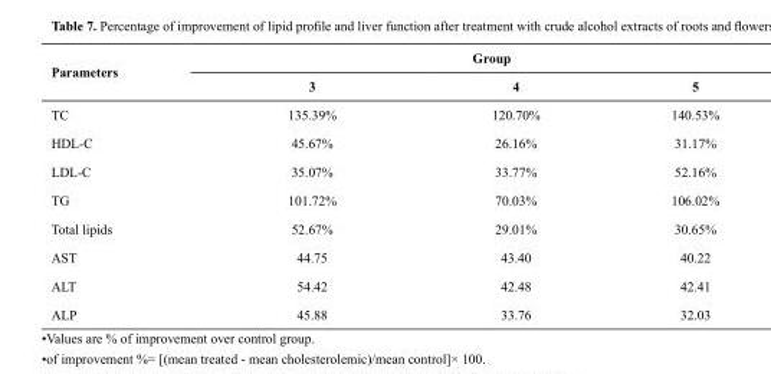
<table><thead><tr><td rowspan="2">Parameters</td><td colspan="3">Group</td></tr><tr><td>3</td><td>4</td><td>5</td></tr></thead><tbody><tr><td>TC</td><td>135.39%</td><td>120.70%</td><td>140.53%</td></tr><tr><td>HDL-C</td><td>45.67%</td><td>26.16%</td><td>31.17%</td></tr><tr><td>LDL-C</td><td>35.07%</td><td>33.77%</td><td>52.16%</td></tr><tr><td>TG</td><td>101.72%</td><td>70.03%</td><td>106.02%</td></tr><tr><td>Total lipids</td><td>52.67%</td><td>29.01%</td><td>30.65%</td></tr><tr><td>AST</td><td>44.75</td><td>43.40</td><td>40.22</td></tr><tr><td>ALT</td><td>54.42</td><td>42.48</td><td>42.41</td></tr><tr><td>ALP</td><td>45.88</td><td>33.76</td><td>32.03</td></tr></tbody></table>